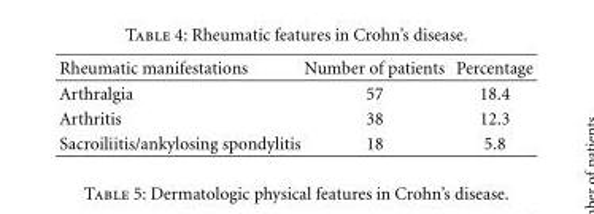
<table><thead><tr><td>Rheumatic manifestations</td><td>Number of patients</td><td>Percentage</td></tr></thead><tbody><tr><td>Arthralgia</td><td>57</td><td>18.4</td></tr><tr><td>Arthritis</td><td>38</td><td>12.3</td></tr><tr><td>Sacroiliitis/ankylosing spondylitis</td><td>18</td><td>5.8</td></tr></tbody></table>